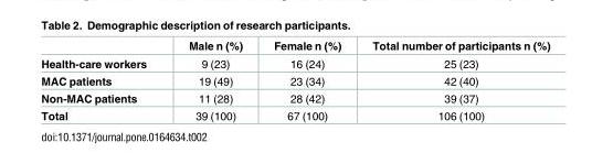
<table><thead><tr><td></td><td>Male n (%)</td><td>Female n (%)</td><td>Total number of participants n (%)</td></tr></thead><tbody><tr><td>Health-care workers</td><td>9 (23)</td><td>16 (24)</td><td>25 (23)</td></tr><tr><td>MAC patients</td><td>19 (49)</td><td>23 (34)</td><td>42 (40)</td></tr><tr><td>Non-MAC patients</td><td>11 (28)</td><td>28 (42)</td><td>39 (37)</td></tr><tr><td>Total</td><td>39 (100)</td><td>67 (100)</td><td>106 (100)</td></tr></tbody></table>